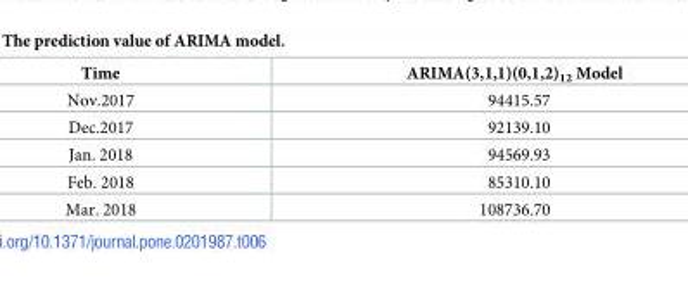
<table><thead><tr><td>Time</td><td>ARIMA(3,1,1)(0,1,2)<sub>12</sub> Model</td></tr></thead><tbody><tr><td>Nov.2017</td><td>94415.57</td></tr><tr><td>Dec.2017</td><td>92139.10</td></tr><tr><td>Jan. 2018</td><td>94569.93</td></tr><tr><td>Feb. 2018</td><td>85310.10</td></tr><tr><td>Mar. 2018</td><td>108736.70</td></tr></tbody></table>